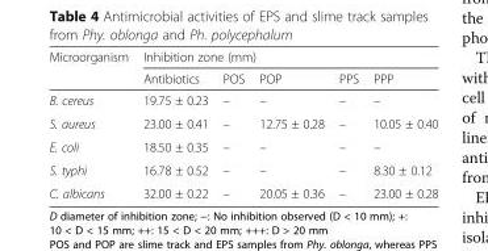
<table><thead><tr><td rowspan="2">Microorganism</td><td colspan="5">Inhibition zone (mm)</td></tr><tr><td>Antibiotics</td><td>POS</td><td>POP</td><td>PPS</td><td>PPP</td></tr></thead><tbody><tr><td>B. cereus</td><td>19.75 ± 0.23</td><td>–</td><td>–</td><td>–</td><td>–</td></tr><tr><td>S. aureus</td><td>23.00 ± 0.41</td><td>–</td><td>12.75 ± 0.28</td><td>–</td><td>10.05 ± 0.40</td></tr><tr><td>E. coli</td><td>18.50 ± 0.35</td><td>–</td><td>–</td><td>–</td><td>–</td></tr><tr><td>S. typhi</td><td>16.78 ± 0.52</td><td>–</td><td>–</td><td>–</td><td>8.30 ± 0.12</td></tr><tr><td>C. albicans</td><td>32.00 ± 0.22</td><td>–</td><td>20.05 ± 0.36</td><td>–</td><td>23.00 ± 0.28</td></tr></tbody></table>